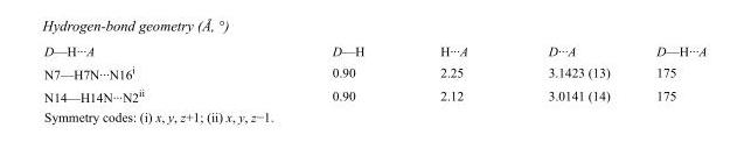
<table><tbody><tr><td>D—H···A</td><td>D—H</td><td>H···A</td><td>D···A</td><td>D—H···A</td></tr><tr><td>N7—H7N···N16<sup>i</sup></td><td>0.90</td><td>2.25</td><td>3.1423 (13)</td><td>175</td></tr><tr><td>N14—H14N···N2<sup>ii</sup></td><td>0.90</td><td>2.12</td><td>3.0141 (14)</td><td>175</td></tr></tbody></table>